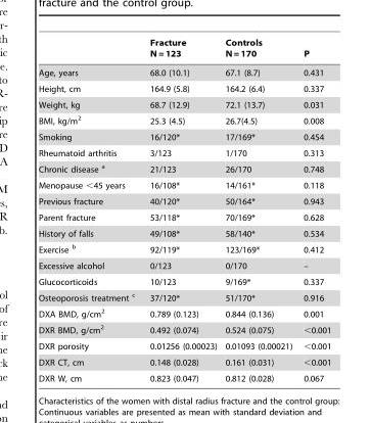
<table><thead><tr><td></td><td>Fracture N = 123</td><td>Controls N = 170</td><td>P</td></tr></thead><tbody><tr><td>Age, years</td><td>68.0 (10.1)</td><td>67.1 (8.7)</td><td>0.431</td></tr><tr><td>Height, cm</td><td>164.9 (5.8)</td><td>164.2 (6.4)</td><td>0.337</td></tr><tr><td>Weight, kg</td><td>68.7 (12.9)</td><td>72.1 (13.7)</td><td>0.031</td></tr><tr><td>BMI, kg/m<sup>2</sup></td><td>25.3 (4.5)</td><td>26.7(4.5)</td><td>0.008</td></tr><tr><td>Smoking</td><td>16/120*</td><td>17/169*</td><td>0.454</td></tr><tr><td>Rheumatoid arthritis</td><td>3/123</td><td>1/170</td><td>0.313</td></tr><tr><td>Chronic disease a</td><td>21/123</td><td>26/170</td><td>0.748</td></tr><tr><td>Menopause &lt;45 years</td><td>16/108*</td><td>14/161*</td><td>0.118</td></tr><tr><td>Previous fracture</td><td>40/120*</td><td>50/164*</td><td>0.943</td></tr><tr><td>Parent fracture</td><td>53/118*</td><td>70/169*</td><td>0.628</td></tr><tr><td>History of falls</td><td>49/108*</td><td>58/140*</td><td>0.534</td></tr><tr><td>Exercise b</td><td>92/119*</td><td>123/169*</td><td>0.412</td></tr><tr><td>Excessive alcohol</td><td>0/123</td><td>0/170</td><td>–</td></tr><tr><td>Glucocorticoids</td><td>10/123</td><td>9/169*</td><td>0.337</td></tr><tr><td>Osteoporosis treatment c</td><td>37/120*</td><td>51/170*</td><td>0.916</td></tr><tr><td>DXA BMD, g/cm<sup>2</sup></td><td>0.789 (0.123)</td><td>0.844 (0.136)</td><td>0.001</td></tr><tr><td>DXR BMD, g/cm<sup>2</sup></td><td>0.492 (0.074)</td><td>0.524 (0.075)</td><td>&lt;0.001</td></tr><tr><td>DXR porosity</td><td>0.01256 (0.00023)</td><td>0.01093 (0.00021)</td><td>&lt;0.001</td></tr><tr><td>DXR CT, cm</td><td>0.148 (0.028)</td><td>0.161 (0.031)</td><td>&lt;0.001</td></tr><tr><td>DXR W, cm</td><td>0.823 (0.047)</td><td>0.812 (0.028)</td><td>0.067</td></tr></tbody></table>